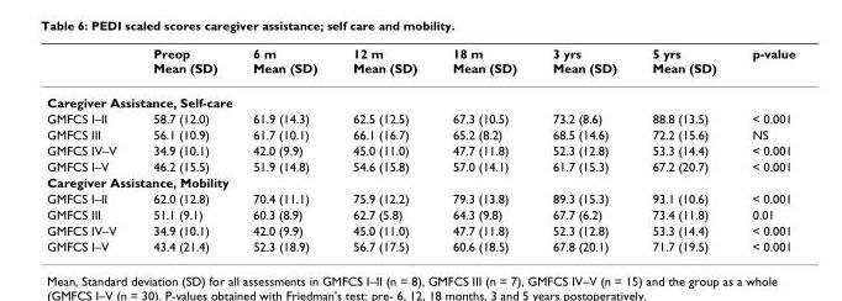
<table><thead><tr><td></td><td>Preop Mean (SD)</td><td>6 m Mean (SD)</td><td>12 m Mean (SD)</td><td>18 m Mean (SD)</td><td>3 yrs Mean (SD)</td><td>5 yrs Mean (SD)</td><td>p-value</td></tr></thead><tbody><tr><td colspan="8">Caregiver Assistance, Self-care</td></tr><tr><td>GMFCS I–II</td><td>58.7 (12.0)</td><td>61.9 (14.3)</td><td>62.5 (12.5)</td><td>67.3 (10.5)</td><td>73.2 (8.6)</td><td>88.8 (13.5)</td><td>&lt; 0.001</td></tr><tr><td>GMFCS III</td><td>56.1 (10.9)</td><td>61.7 (10.1)</td><td>66.1 (16.7)</td><td>65.2 (8.2)</td><td>68.5 (14.6)</td><td>72.2 (15.6)</td><td>NS</td></tr><tr><td>GMFCS IV–V</td><td>34.9 (10.1)</td><td>42.0 (9.9)</td><td>45.0 (11.0)</td><td>47.7 (11.8)</td><td>52.3 (12.8)</td><td>53.3 (14.4)</td><td>&lt; 0.001</td></tr><tr><td>GMFCS I–V</td><td>46.2 (15.5)</td><td>51.9 (14.8)</td><td>54.6 (15.8)</td><td>57.0 (14.1)</td><td>61.7 (15.3)</td><td>67.2 (20.7)</td><td>&lt; 0.001</td></tr><tr><td colspan="8">Caregiver Assistance, Mobility</td></tr><tr><td>GMFCS I–II</td><td>62.0 (12.8)</td><td>70.4 (11.1)</td><td>75.9 (12.2)</td><td>79.3 (13.8)</td><td>89.3 (15.3)</td><td>93.1 (10.6)</td><td>&lt; 0.001</td></tr><tr><td>GMFCS III</td><td>51.1 (9.1)</td><td>60.3 (8.9)</td><td>62.7 (5.8)</td><td>64.3 (9.8)</td><td>67.7 (6.2)</td><td>73.4 (11.8)</td><td>0.01</td></tr><tr><td>GMFCS IV–V</td><td>34.9 (10.1)</td><td>42.0 (9.9)</td><td>45.0 (11.0)</td><td>47.7 (11.8)</td><td>52.3 (12.8)</td><td>53.3 (14.4)</td><td>&lt; 0.001</td></tr><tr><td>GMFCS I–V</td><td>43.4 (21.4)</td><td>52.3 (18.9)</td><td>56.7 (17.5)</td><td>60.6 (18.5)</td><td>67.8 (20.1)</td><td>71.7 (19.5)</td><td>&lt; 0.001</td></tr></tbody></table>